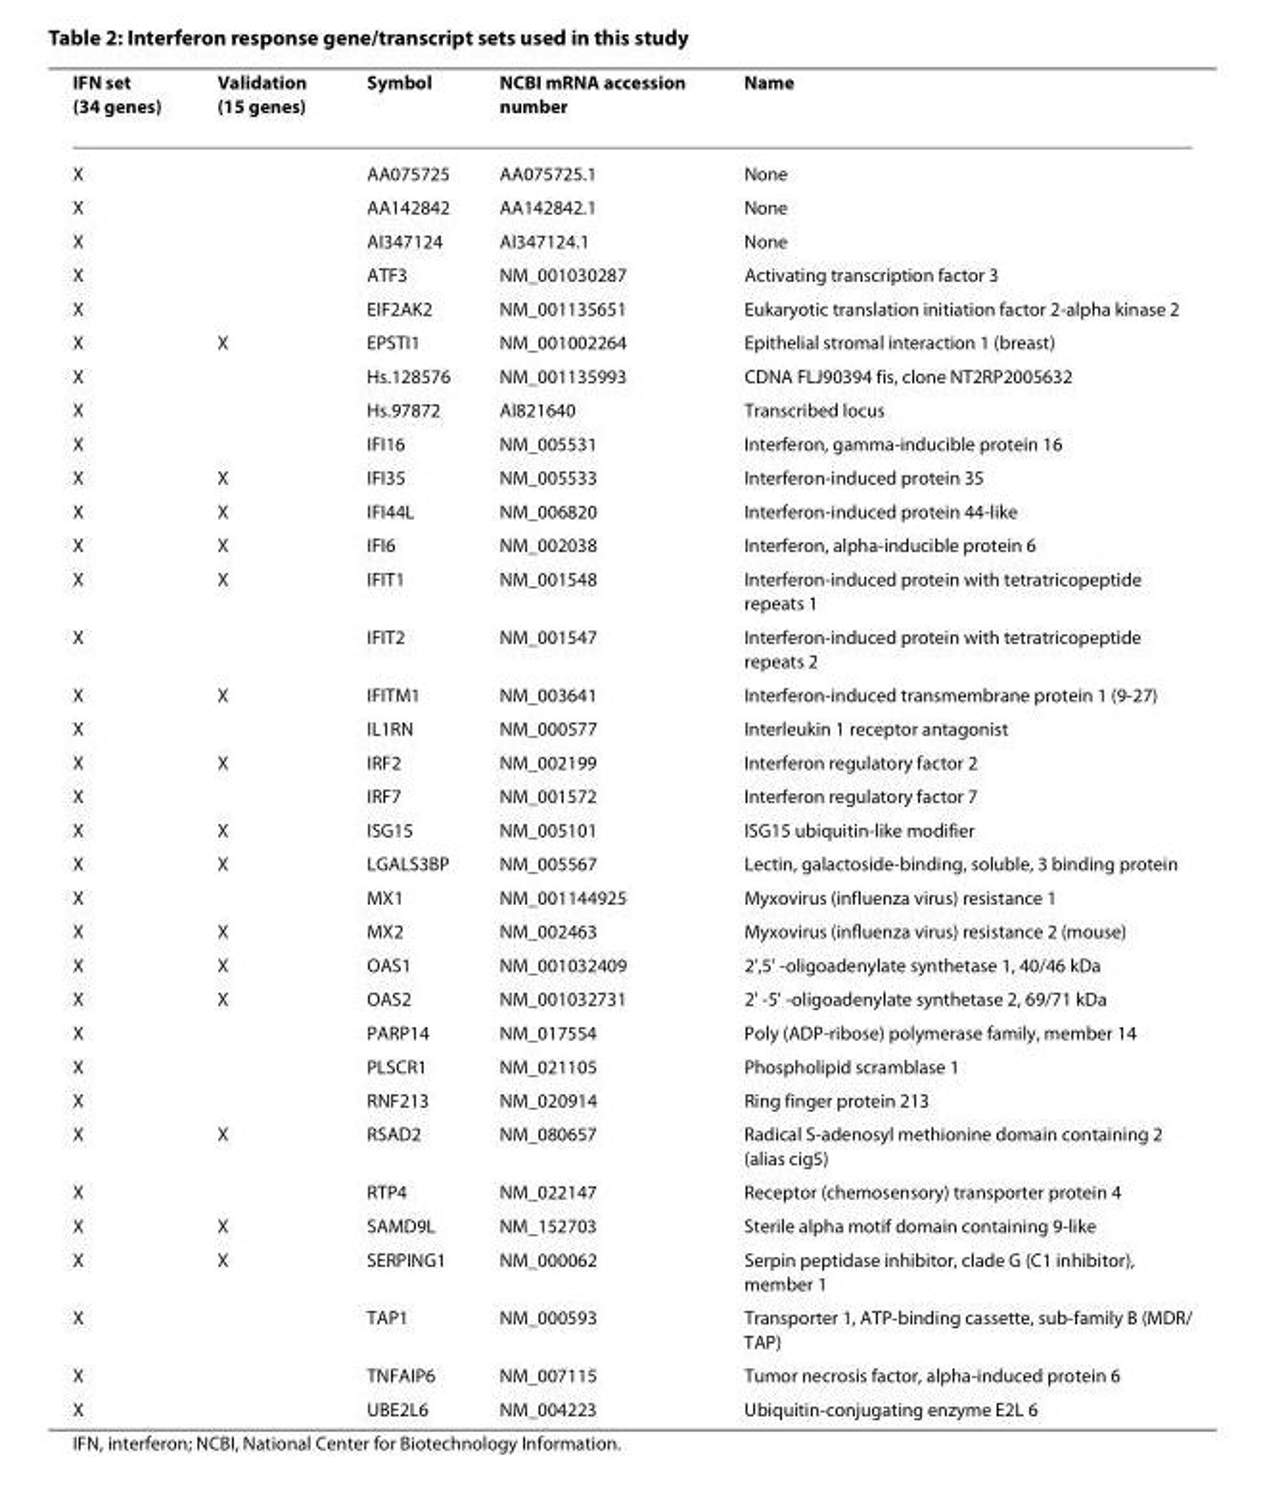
<table><thead><tr><td>IFN set (34 genes)</td><td>Validation (15 genes)</td><td>Symbol</td><td>NCBI mRNA accession number</td><td>Name</td></tr></thead><tbody><tr><td>X</td><td></td><td>AA075725</td><td>AA075725.1</td><td>None</td></tr><tr><td>X</td><td></td><td>AA142842</td><td>AA142842.1</td><td>None</td></tr><tr><td>X</td><td></td><td>AI347124</td><td>AI347124.1</td><td>None</td></tr><tr><td>X</td><td></td><td>ATF3</td><td>NM_001030287</td><td>Activating transcription factor 3</td></tr><tr><td>X</td><td></td><td>EIF2AK2</td><td>NM_001135651</td><td>Eukaryotic translation initiation factor 2-alpha kinase 2</td></tr><tr><td>X</td><td>X</td><td>EPSTI1</td><td>NM_001002264</td><td>Epithelial stromal interaction 1 (breast)</td></tr><tr><td>X</td><td></td><td>Hs.128576</td><td>NM_001135993</td><td>CDNA FLJ90394 fis, clone NT2RP2005632</td></tr><tr><td>X</td><td></td><td>Hs.97872</td><td>AI821640</td><td>Transcribed locus</td></tr><tr><td>X</td><td></td><td>IFI16</td><td>NM_005531</td><td>Interferon, gamma-inducible protein 16</td></tr><tr><td>X</td><td>X</td><td>IFI35</td><td>NM_005533</td><td>Interferon-induced protein 35</td></tr><tr><td>X</td><td>X</td><td>IFI44L</td><td>NM_006820</td><td>Interferon-induced protein 44-like</td></tr><tr><td>X</td><td>X</td><td>IFI6</td><td>NM_002038</td><td>Interferon, alpha-inducible protein 6</td></tr><tr><td>X</td><td>X</td><td>IFIT1</td><td>NM_001548</td><td>Interferon-induced protein with tetratricopeptide repeats 1</td></tr><tr><td>X</td><td></td><td>IFIT2</td><td>NM_001547</td><td>Interferon-induced protein with tetratricopeptide repeats 2</td></tr><tr><td>X</td><td>X</td><td>IFITM1</td><td>NM_003641</td><td>Interferon-induced transmembrane protein 1 (9-27)</td></tr><tr><td>X</td><td></td><td>IL1RN</td><td>NM_000577</td><td>Interleukin 1 receptor antagonist</td></tr><tr><td>X</td><td>X</td><td>IRF2</td><td>NM_002199</td><td>Interferon regulatory factor 2</td></tr><tr><td>X</td><td></td><td>IRF7</td><td>NM_001572</td><td>Interferon regulatory factor 7</td></tr><tr><td>X</td><td>X</td><td>ISG15</td><td>NM_005101</td><td>ISG15 ubiquitin-like modifier</td></tr><tr><td>X</td><td>X</td><td>LGALS3BP</td><td>NM_005567</td><td>Lectin, galactoside-binding, soluble, 3 binding protein</td></tr><tr><td>X</td><td></td><td>MX1</td><td>NM_001144925</td><td>Myxovirus (influenza virus) resistance 1</td></tr><tr><td>X</td><td>X</td><td>MX2</td><td>NM_002463</td><td>Myxovirus (influenza virus) resistance 2 (mouse)</td></tr><tr><td>X</td><td>X</td><td>OAS1</td><td>NM_001032409</td><td>2&#x27;,5&#x27; -oligoadenylate synthetase 1, 40/46 kDa</td></tr><tr><td>X</td><td>X</td><td>OAS2</td><td>NM_001032731</td><td>2&#x27; -5&#x27; -oligoadenylate synthetase 2, 69/71 kDa</td></tr><tr><td>X</td><td></td><td>PARP14</td><td>NM_017554</td><td>Poly (ADP-ribose) polymerase family, member 14</td></tr><tr><td>X</td><td></td><td>PLSCR1</td><td>NM_021105</td><td>Phospholipid scramblase 1</td></tr><tr><td>X</td><td></td><td>RNF213</td><td>NM_020914</td><td>Ring finger protein 213</td></tr><tr><td>X</td><td>X</td><td>RSAD2</td><td>NM_080657</td><td>Radical S-adenosyl methionine domain containing 2 (alias cig5)</td></tr><tr><td>X</td><td></td><td>RTP4</td><td>NM_022147</td><td>Receptor (chemosensory) transporter protein 4</td></tr><tr><td>X</td><td>X</td><td>SAMD9L</td><td>NM_152703</td><td>Sterile alpha motif domain containing 9-like</td></tr><tr><td>X</td><td>X</td><td>SERPING1</td><td>NM_000062</td><td>Serpin peptidase inhibitor, clade G (C1 inhibitor), member 1</td></tr><tr><td>X</td><td></td><td>TAP1</td><td>NM_000593</td><td>Transporter 1, ATP-binding cassette, sub-family B (MDR/ TAP)</td></tr><tr><td>X</td><td></td><td>TNFAIP6</td><td>NM_007115</td><td>Tumor necrosis factor, alpha-induced protein 6</td></tr><tr><td>X</td><td></td><td>UBE2L6</td><td>NM_004223</td><td>Ubiquitin-conjugating enzyme E2L 6</td></tr></tbody></table>